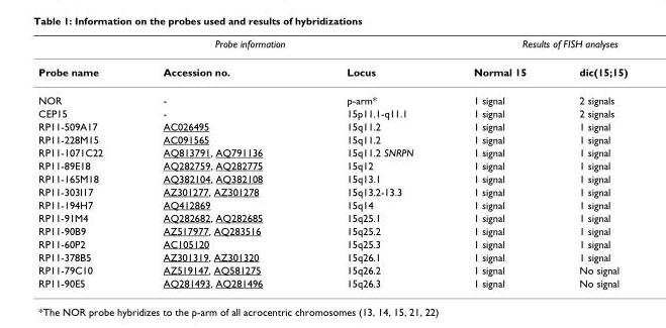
<table><thead><tr><td rowspan="2">Probe name</td><td rowspan="2">Probe information Accession no.</td><td rowspan="2">Locus</td><td colspan="2">Results of FISH analyses</td></tr><tr><td>Normal 15</td><td>dic(15;15)</td></tr></thead><tbody><tr><td>NOR</td><td>-</td><td>p-arm*</td><td>1 signal</td><td>2 signals</td></tr><tr><td>CEP15</td><td>-</td><td>15p11.1-q11.1</td><td>1 signal</td><td>2 signals</td></tr><tr><td>RP11-509A17</td><td>AC026495</td><td>15q11.2</td><td>1 signal</td><td>1 signal</td></tr><tr><td>RP11-228M15</td><td>AC091565</td><td>15q11.2</td><td>1 signal</td><td>1 signal</td></tr><tr><td>RP11-1071C22</td><td>AQ813791, AQ791136</td><td>15q11.2 SNRPN</td><td>1 signal</td><td>1 signal</td></tr><tr><td>RP11-89E18</td><td>AQ282759, AQ282775</td><td>15q12</td><td>1 signal</td><td>1 signal</td></tr><tr><td>RP11-165M18</td><td>AQ382104, AQ382108</td><td>15q13.1</td><td>1 signal</td><td>1 signal</td></tr><tr><td>RP11-303I17</td><td>AZ301277, AZ301278</td><td>15q13.2-13.3</td><td>1 signal</td><td>1 signal</td></tr><tr><td>RP11-194H7</td><td>AQ412869</td><td>15q14</td><td>1 signal</td><td>1 signal</td></tr><tr><td>RP11-91M4</td><td>AQ282682, AQ282685</td><td>15q25.1</td><td>1 signal</td><td>1 signal</td></tr><tr><td>RP11-90B9</td><td>AZ517977, AQ283516</td><td>15q25.2</td><td>1 signal</td><td>1 signal</td></tr><tr><td>RP11-60P2</td><td>AC105120</td><td>15q25.3</td><td>1 signal</td><td>1 signal</td></tr><tr><td>RP11-378B5</td><td>AZ301319, AZ301320</td><td>15q26.1</td><td>1 signal</td><td>1 signal</td></tr><tr><td>RP11-79C10</td><td>AZ519147, AQ581275</td><td>15q26.2</td><td>1 signal</td><td>No signal</td></tr><tr><td>RP11-90E5</td><td>AQ281493, AQ281496</td><td>15q26.3</td><td>1 signal</td><td>No signal</td></tr></tbody></table>